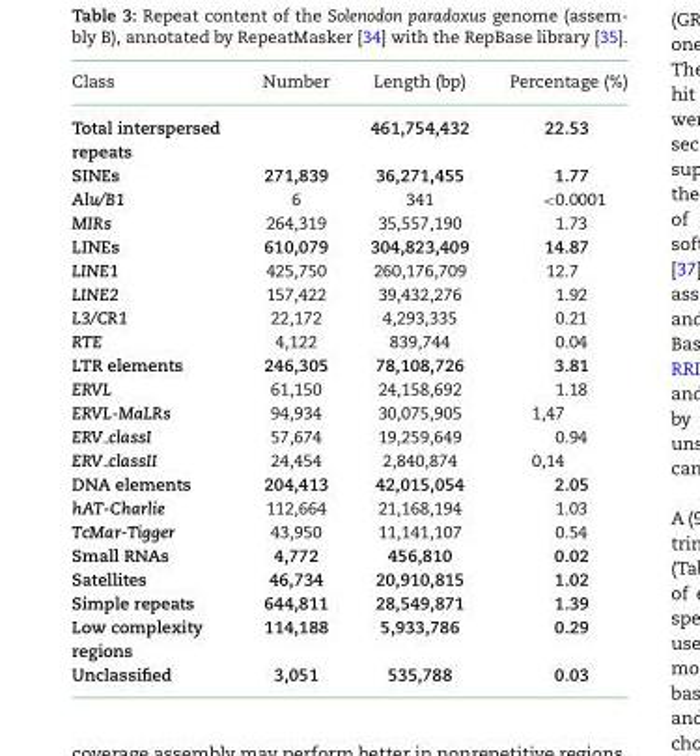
<table><thead><tr><td>Class</td><td>Number</td><td>Length (bp)</td><td>Percentage (%)</td></tr></thead><tbody><tr><td>Total interspersed repeats</td><td></td><td>461,754,432</td><td>22.53</td></tr><tr><td>SINEs</td><td>271,839</td><td>36,271,455</td><td>1.77</td></tr><tr><td>Alu/B1</td><td>6</td><td>341</td><td>&lt;0.0001</td></tr><tr><td>MIRs</td><td>264,319</td><td>35,557,190</td><td>1.73</td></tr><tr><td>LINEs</td><td>610,079</td><td>304,823,409</td><td>14.87</td></tr><tr><td>LINE1</td><td>425,750</td><td>260,176,709</td><td>12.7</td></tr><tr><td>LINE2</td><td>157,422</td><td>39,432,276</td><td>1.92</td></tr><tr><td>L3/CR1</td><td>22,172</td><td>4,293,335</td><td>0.21</td></tr><tr><td>RTE</td><td>4,122</td><td>839,744</td><td>0.04</td></tr><tr><td>LTR elements</td><td>246,305</td><td>78,108,726</td><td>3.81</td></tr><tr><td>ERVL</td><td>61,150</td><td>24,158,692</td><td>1.18</td></tr><tr><td>ERVL-MaLRs</td><td>94,934</td><td>30,075,905</td><td>1,47</td></tr><tr><td>ERV classI</td><td>57,674</td><td>19,259,649</td><td>0.94</td></tr><tr><td>ERV classII</td><td>24,454</td><td>2,840,874</td><td>0,14</td></tr><tr><td>DNA elements</td><td>204,413</td><td>42,015,054</td><td>2.05</td></tr><tr><td>hAT-Charlie</td><td>112,664</td><td>21,168,194</td><td>1.03</td></tr><tr><td>TcMar-Tigger</td><td>43,950</td><td>11,141,107</td><td>0.54</td></tr><tr><td>Small RNAs</td><td>4,772</td><td>456,810</td><td>0.02</td></tr><tr><td>Satellites</td><td>46,734</td><td>20,910,815</td><td>1.02</td></tr><tr><td>Simple repeats</td><td>644,811</td><td>28,549,871</td><td>1.39</td></tr><tr><td>Low complexity regions</td><td>114,188</td><td>5,933,786</td><td>0.29</td></tr><tr><td>Unclassified</td><td>3,051</td><td>535,788</td><td>0.03</td></tr></tbody></table>